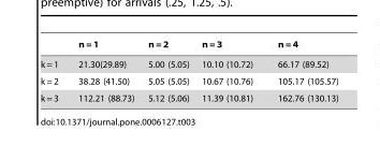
<table><thead><tr><td></td><td>n = 1</td><td>n = 2</td><td>n = 3</td><td>n = 4</td></tr></thead><tbody><tr><td>k = 1</td><td>21.30(29.89)</td><td>5.00 (5.05)</td><td>10.10 (10.72)</td><td>66.17 (89.52)</td></tr><tr><td>k = 2</td><td>38.28 (41.50)</td><td>5.05 (5.05)</td><td>10.67 (10.76)</td><td>105.17 (105.57)</td></tr><tr><td>k = 3</td><td>112.21 (88.73)</td><td>5.12 (5.06)</td><td>11.39 (10.81)</td><td>162.76 (130.13)</td></tr></tbody></table>